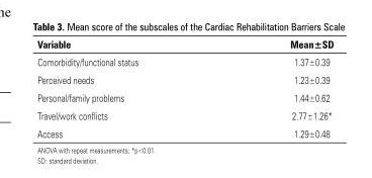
<table><thead><tr><td>Variable</td><td>Mean±SD</td></tr></thead><tbody><tr><td>Comorbidity/functional status</td><td>1.37±0.39</td></tr><tr><td>Perceived needs</td><td>1.23±0.39</td></tr><tr><td>Personal/family problems</td><td>1.44±0.62</td></tr><tr><td>Travel/work conflicts</td><td>2.77±1.26*</td></tr><tr><td>Access</td><td>1.29±0.48</td></tr></tbody></table>